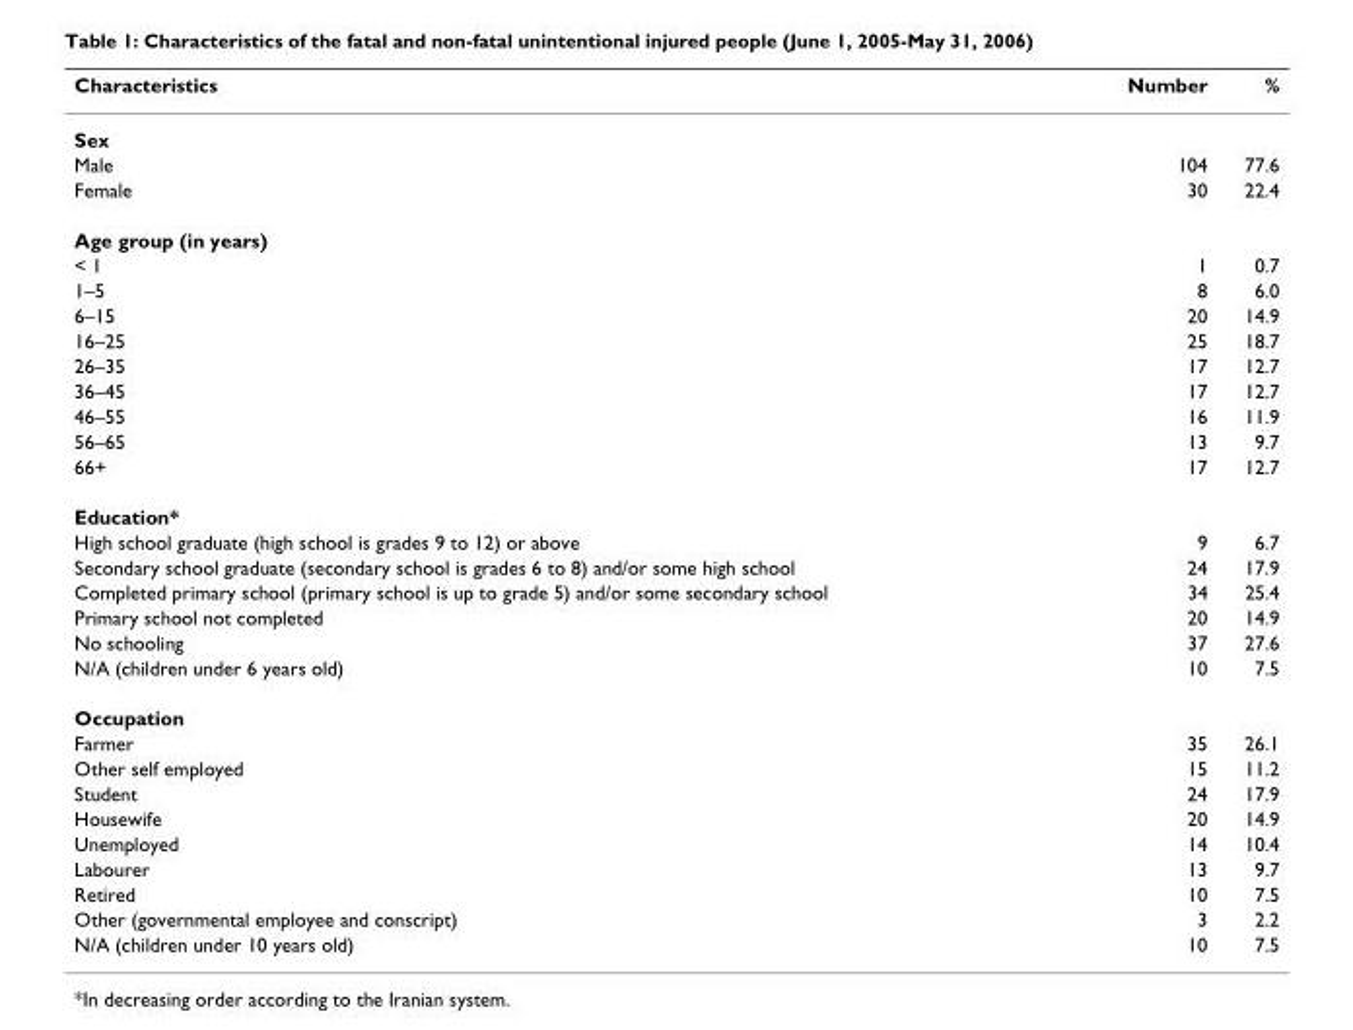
<table><thead><tr><td>Characteristics</td><td>Number</td><td>%</td></tr></thead><tbody><tr><td colspan="3">Sex</td></tr><tr><td>Male</td><td>104</td><td>77.6</td></tr><tr><td>Female</td><td>30</td><td>22.4</td></tr><tr><td colspan="3">Age group (in years)</td></tr><tr><td>&lt; 1</td><td>1</td><td>0.7</td></tr><tr><td>1–5</td><td>8</td><td>6.0</td></tr><tr><td>6–15</td><td>20</td><td>14.9</td></tr><tr><td>16–25</td><td>25</td><td>18.7</td></tr><tr><td>26–35</td><td>17</td><td>12.7</td></tr><tr><td>36–45</td><td>17</td><td>12.7</td></tr><tr><td>46–55</td><td>16</td><td>11.9</td></tr><tr><td>56–65</td><td>13</td><td>9.7</td></tr><tr><td>66+</td><td>17</td><td>12.7</td></tr><tr><td colspan="3">Education*</td></tr><tr><td>High school graduate (high school is grades 9 to 12) or above</td><td>9</td><td>6.7</td></tr><tr><td>Secondary school graduate (secondary school is grades 6 to 8) and/or some high school</td><td>24</td><td>17.9</td></tr><tr><td>Completed primary school (primary school is up to grade 5) and/or some secondary school</td><td>34</td><td>25.4</td></tr><tr><td>Primary school not completed</td><td>20</td><td>14.9</td></tr><tr><td>No schooling</td><td>37</td><td>27.6</td></tr><tr><td>N/A (children under 6 years old)</td><td>10</td><td>7.5</td></tr><tr><td colspan="3">Occupation</td></tr><tr><td>Farmer</td><td>35</td><td>26.1</td></tr><tr><td>Other self employed</td><td>15</td><td>11.2</td></tr><tr><td>Student</td><td>24</td><td>17.9</td></tr><tr><td>Housewife</td><td>20</td><td>14.9</td></tr><tr><td>Unemployed</td><td>14</td><td>10.4</td></tr><tr><td>Labourer</td><td>13</td><td>9.7</td></tr><tr><td>Retired</td><td>10</td><td>7.5</td></tr><tr><td>Other (governmental employee and conscript)</td><td>3</td><td>2.2</td></tr><tr><td>N/A (children under 10 years old)</td><td>10</td><td>7.5</td></tr></tbody></table>